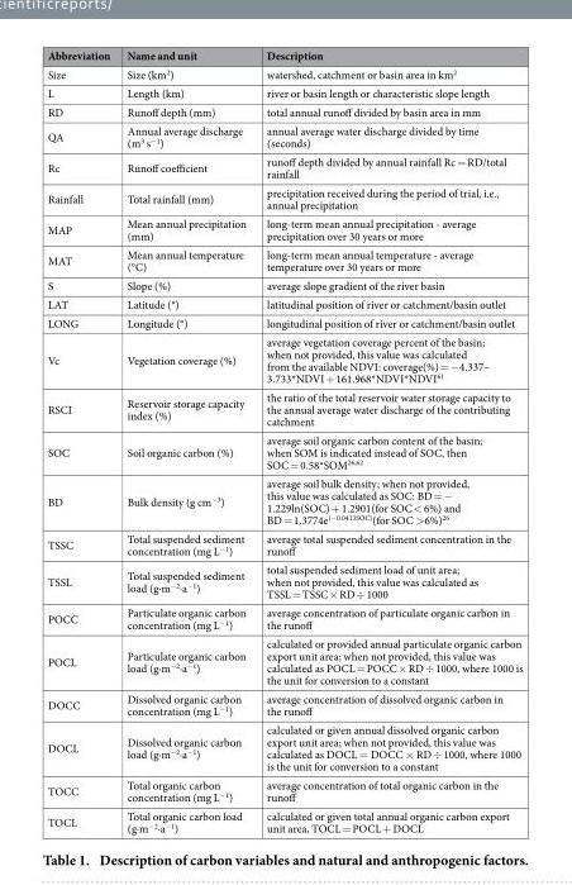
<table><thead><tr><td>Abbreviation</td><td>Name and unit</td><td>Description</td></tr></thead><tbody><tr><td>Size</td><td>Size (km<sup>2</sup>)</td><td>watershed, catchment or basin area in km<sup>2</sup></td></tr><tr><td>L</td><td>Length (km)</td><td>river or basin length or characteristic slope length</td></tr><tr><td>RD</td><td>Runoff depth (mm)</td><td>total annual runoff divided by basin area in mm</td></tr><tr><td>QA</td><td>Annual average discharge (m<sup>3</sup> s<sup>−1</sup>)</td><td>annual average water discharge divided by time (seconds)</td></tr><tr><td>Rc</td><td>Runoff coefficient</td><td>runoff depth divided by annual rainfall Rc = RD/total rainfall</td></tr><tr><td>Rainfall</td><td>Total rainfall (mm)</td><td>precipitation received during the period of trial, i.e., annual precipitation</td></tr><tr><td>MAP</td><td>Mean annual precipitation (mm)</td><td>long-term mean annual precipitation - average precipitation over 30 years or more</td></tr><tr><td>MAT</td><td>Mean annual temperature (°C)</td><td>long-term mean annual temperature - average temperature over 30 years or more</td></tr><tr><td>S</td><td>Slope (%)</td><td>average slope gradient of the river basin</td></tr><tr><td>LAT</td><td>Latitude (°)</td><td>latitudinal position of river or catchment/basin outlet</td></tr><tr><td>LONG</td><td>Longitude (°)</td><td>longitudinal position of river or catchment/basin outlet</td></tr><tr><td>Vc</td><td>Vegetation coverage (%)</td><td>average vegetation coverage percent of the basin; when not provided, this value was calculated from the available NDVI: coverage(%) = − 4.337– 3.733*NDVI + 161.968*NDVI*NDVI<sup>61</sup></td></tr><tr><td>RSCI</td><td>Reservoir storage capacity index (%)</td><td>the ratio of the total reservoir water storage capacity to the annual average water discharge of the contributing catchment</td></tr><tr><td>SOC</td><td>Soil organic carbon (%)</td><td>average soil organic carbon content of the basin; when SOM is indicated instead of SOC, then SOC = 0.58*SOM<sup>26</sup>,<sup>62</sup></td></tr><tr><td>BD</td><td>Bulk density (g cm<sup>−3</sup>)</td><td>average soil bulk density; when not provided, this value was calculated as SOC: BD = − 1.229ln(SOC) + 1.2901(for SOC &lt; 6%) and BD = 1.3774e<sup>(−0.0413SOC)</sup>(for SOC &gt; 6%)<sup>26</sup></td></tr><tr><td>TSSC</td><td>Total suspended sediment concentration (mg L<sup>−1</sup>)</td><td>average total suspended sediment concentration in the runoff</td></tr><tr><td>TSSL</td><td>Total suspended sediment load (g·m<sup>−2</sup>·a<sup>−1</sup>)</td><td>total suspended sediment load of unit area; when not provided, this value was calculated as TSSL = TSSC × RD ÷ 1000</td></tr><tr><td>POCC</td><td>Particulate organic carbon concentration (mg L<sup>−1</sup>)</td><td>average concentration of particulate organic carbon in the runoff</td></tr><tr><td>POCL</td><td>Particulate organic carbon load (g·m<sup>−2</sup>·a<sup>−1</sup>)</td><td>calculated or provided annual particulate organic carbon export unit area; when not provided, this value was calculated as POCL = POCC × RD ÷ 1000, where 1000 is the unit for conversion to a constant</td></tr><tr><td>DOCC</td><td>Dissolved organic carbon concentration (mg L<sup>−1</sup>)</td><td>average concentration of dissolved organic carbon in the runoff</td></tr><tr><td>DOCL</td><td>Dissolved organic carbon load (g·m<sup>−2</sup>·a<sup>−1</sup>)</td><td>calculated or given annual dissolved organic carbon export unit area; when not provided, this value was calculated as DOCL = DOCC × RD ÷ 1000, where 1000 is the unit for conversion to a constant</td></tr><tr><td>TOCC</td><td>Total organic carbon concentration (mg L<sup>−1</sup>)</td><td>average concentration of total organic carbon in the runoff</td></tr><tr><td>TOCL</td><td>Total organic carbon load (g·m<sup>−2</sup>·a<sup>−1</sup>)</td><td>calculated or given total annual organic carbon export unit area, TOCL = POCL + DOCL</td></tr></tbody></table>